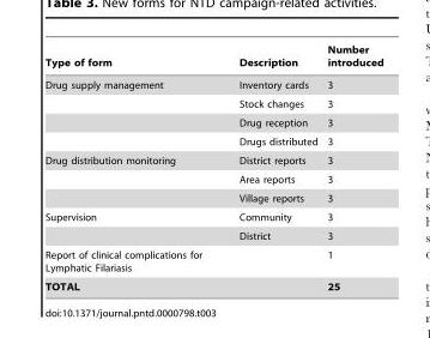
<table><thead><tr><td>Type of form</td><td>Description</td><td>Number introduced</td></tr></thead><tbody><tr><td rowspan="4">Drug supply management</td><td>Inventory cards</td><td>3</td></tr><tr><td>Stock changes</td><td>3</td></tr><tr><td>Drug reception</td><td>3</td></tr><tr><td>Drugs distributed</td><td>3</td></tr><tr><td rowspan="3">Drug distribution monitoring</td><td>District reports</td><td>3</td></tr><tr><td>Area reports</td><td>3</td></tr><tr><td>Village reports</td><td>3</td></tr><tr><td rowspan="2">Supervision</td><td>Community</td><td>3</td></tr><tr><td>District</td><td>3</td></tr><tr><td>Report of clinical complications for Lymphatic Filariasis</td><td></td><td>1</td></tr><tr><td>TOTAL</td><td></td><td>25</td></tr></tbody></table>